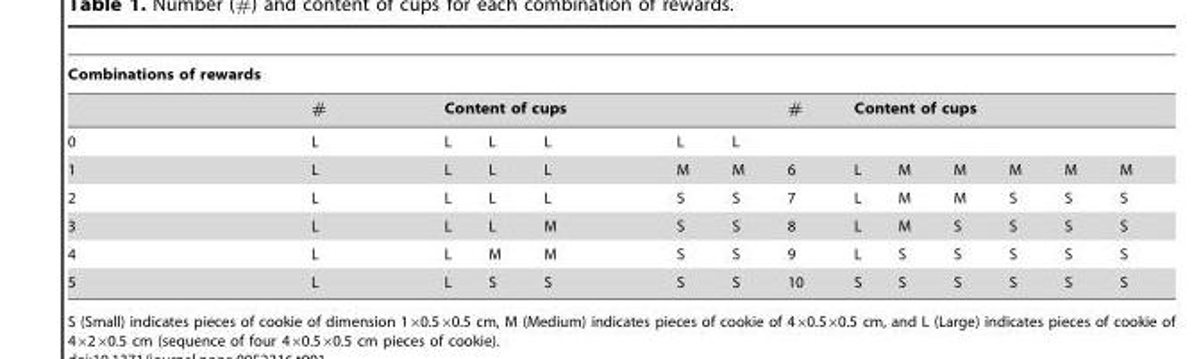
<table><thead><tr><td colspan="14">Combinations of rewards</td></tr><tr><td rowspan="2">0</td><td rowspan="2"># L</td><td colspan="5">Content of cups</td><td rowspan="2">#</td><td colspan="6">Content of cups</td></tr><tr><td>L</td><td>L</td><td>L</td><td>L</td><td>L</td><td></td><td></td><td></td><td></td><td></td><td></td></tr></thead><tbody><tr><td>1</td><td>L</td><td>L</td><td>L</td><td>L</td><td>M</td><td>M</td><td>6</td><td>L</td><td>M</td><td>M</td><td>M</td><td>M</td><td>M</td></tr><tr><td>2</td><td>L</td><td>L</td><td>L</td><td>L</td><td>S</td><td>S</td><td>7</td><td>L</td><td>M</td><td>M</td><td>S</td><td>S</td><td>S</td></tr><tr><td>3</td><td>L</td><td>L</td><td>L</td><td>M</td><td>S</td><td>S</td><td>8</td><td>L</td><td>M</td><td>S</td><td>S</td><td>S</td><td>S</td></tr><tr><td>4</td><td>L</td><td>L</td><td>M</td><td>M</td><td>S</td><td>S</td><td>9</td><td>L</td><td>S</td><td>S</td><td>S</td><td>S</td><td>S</td></tr><tr><td>5</td><td>L</td><td>L</td><td>S</td><td>S</td><td>S</td><td>S</td><td>10</td><td>S</td><td>S</td><td>S</td><td>S</td><td>S</td><td>S</td></tr></tbody></table>